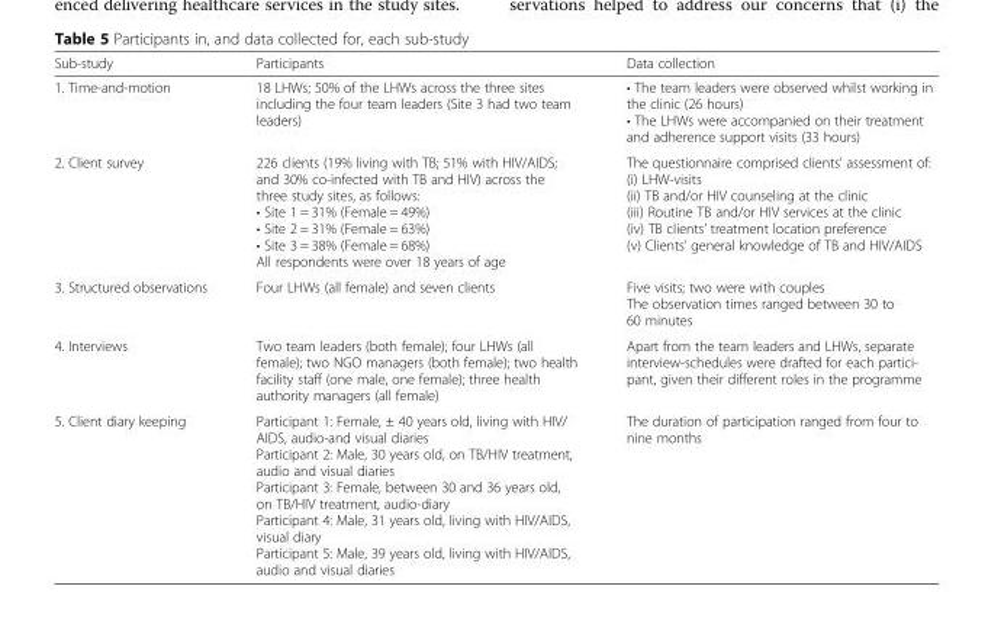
<table><thead><tr><td>Sub-study</td><td>Participants</td><td>Data collection</td></tr></thead><tbody><tr><td>1. Time-and-motion</td><td>18 LHWs; 50% of the LHWs across the three sites including the four team leaders (Site 3 had two team leaders)</td><td>• The team leaders were observed whilst working in the clinic (26 hours) • The LHWs were accompanied on their treatment and adherence support visits (33 hours)</td></tr><tr><td>2. Client survey</td><td>226 clients (19% living with TB; 51% with HIV/AIDS; and 30% co-infected with TB and HIV) across the three study sites, as follows: • Site 1 = 31% (Female = 49%) • Site 2 = 31% (Female = 63%) • Site 3 = 38% (Female = 68%) All respondents were over 18 years of age</td><td>The questionnaire comprised clients’ assessment of: (i) LHW-visits (ii) TB and/or HIV counseling at the clinic (iii) Routine TB and/or HIV services at the clinic (iv) TB clients’ treatment location preference (v) Clients’ general knowledge of TB and HIV/AIDS</td></tr><tr><td>3. Structured observations</td><td>Four LHWs (all female) and seven clients</td><td>Five visits; two were with couples The observation times ranged between 30 to 60 minutes</td></tr><tr><td>4. Interviews</td><td>Two team leaders (both female); four LHWs (all female); two NGO managers (both female); two health facility staff (one male, one female); three health authority managers (all female)</td><td>Apart from the team leaders and LHWs, separate interview-schedules were drafted for each partici- pant, given their different roles in the programme</td></tr><tr><td>5. Client diary keeping</td><td>Participant 1: Female, ± 40 years old, living with HIV/ AIDS, audio-and visual diaries Participant 2: Male, 30 years old, on TB/HIV treatment, audio and visual diaries Participant 3: Female, between 30 and 36 years old, on TB/HIV treatment, audio-diary Participant 4: Male, 31 years old, living with HIV/AIDS, visual diary Participant 5: Male, 39 years old, living with HIV/AIDS, audio and visual diaries</td><td>The duration of participation ranged from four to nine months</td></tr></tbody></table>